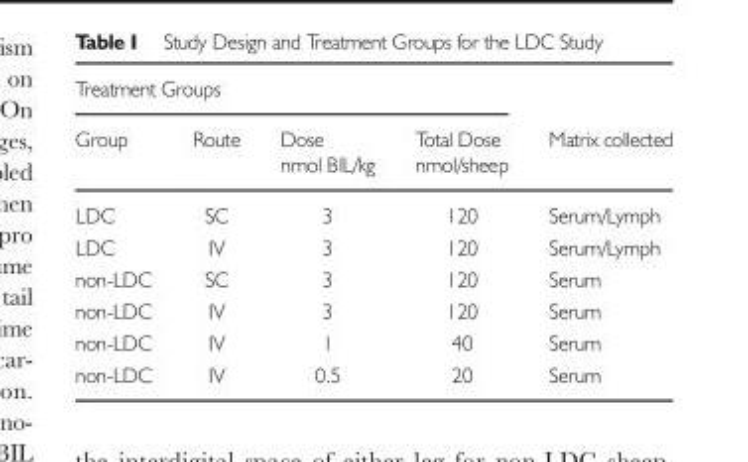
<table><thead><tr><td colspan="4">Treatment Groups</td><td rowspan="2">Matrix collected</td></tr><tr><td>Group</td><td>Route</td><td>Dose nmol BIL/kg</td><td>Total Dose nmol/sheep</td></tr></thead><tbody><tr><td>LDC</td><td>SC</td><td>3</td><td>120</td><td>Serum/Lymph</td></tr><tr><td>LDC</td><td>IV</td><td>3</td><td>120</td><td>Serum/Lymph</td></tr><tr><td>non-LDC</td><td>SC</td><td>3</td><td>120</td><td>Serum</td></tr><tr><td>non-LDC</td><td>IV</td><td>3</td><td>120</td><td>Serum</td></tr><tr><td>non-LDC</td><td>IV</td><td>1</td><td>40</td><td>Serum</td></tr><tr><td>non-LDC</td><td>IV</td><td>0.5</td><td>20</td><td>Serum</td></tr></tbody></table>